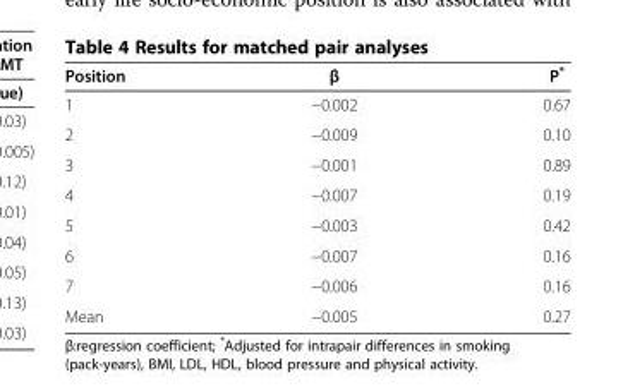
<table><thead><tr><td>Position</td><td>β</td><td>P*</td></tr></thead><tbody><tr><td>1</td><td>−0.002</td><td>0.67</td></tr><tr><td>2</td><td>−0.009</td><td>0.10</td></tr><tr><td>3</td><td>−0.001</td><td>0.89</td></tr><tr><td>4</td><td>−0.007</td><td>0.19</td></tr><tr><td>5</td><td>−0.003</td><td>0.42</td></tr><tr><td>6</td><td>−0.007</td><td>0.16</td></tr><tr><td>7</td><td>−0.006</td><td>0.16</td></tr><tr><td>Mean</td><td>−0.005</td><td>0.27</td></tr></tbody></table>